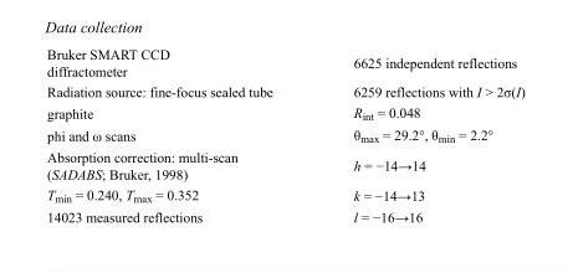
<table><tbody><tr><td>Bruker SMART CCD diffractometer</td><td>6625 independent reflections</td></tr><tr><td>Radiation source: fine-focus sealed tube</td><td>6259 reflections with I &gt; 2σ(I)</td></tr><tr><td>graphite</td><td>R<sub>int</sub> = 0.048</td></tr><tr><td>phi and ω scans</td><td>θ<sub>max</sub> = 29.2°, θ<sub>min</sub> = 2.2°</td></tr><tr><td>Absorption correction: multi-scan (SADABS; Bruker, 1998)</td><td>h = −14→14</td></tr><tr><td>T<sub>min</sub> = 0.240, T<sub>max</sub> = 0.352</td><td>k = −14→13</td></tr><tr><td>14023 measured reflections</td><td>l = −16→16</td></tr></tbody></table>